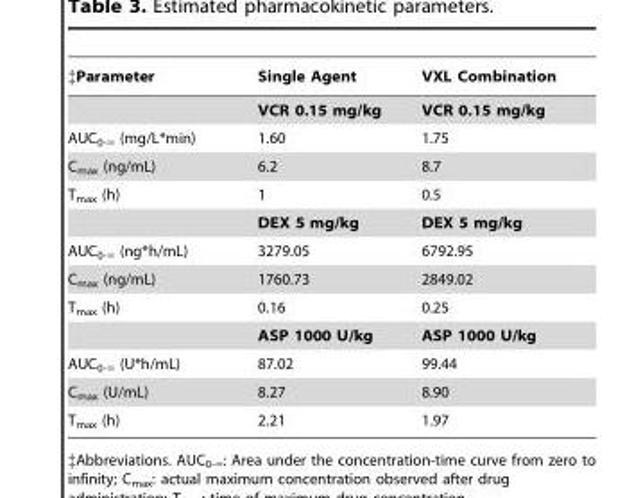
<table><thead><tr><td>‡Parameter</td><td>Single Agent</td><td>VXL Combination</td></tr></thead><tbody><tr><td></td><td>VCR 0.15 mg/kg</td><td>VCR 0.15 mg/kg</td></tr><tr><td>AUC0-‘ (mg/L*min)</td><td>1.60</td><td>1.75</td></tr><tr><td>C<sub>max</sub> (ng/mL)</td><td>6.2</td><td>8.7</td></tr><tr><td rowspan="2">T<sub>max</sub> (h)</td><td>1</td><td>0.5</td></tr><tr><td>DEX 5 mg/kg</td><td>DEX 5 mg/kg</td></tr><tr><td>AUC0-‘ (ng*h/mL)</td><td>3279.05</td><td>6792.95</td></tr><tr><td>C<sub>max</sub> (ng/mL)</td><td>1760.73</td><td>2849.02</td></tr><tr><td rowspan="2">T<sub>max</sub> (h)</td><td>0.16</td><td>0.25</td></tr><tr><td>ASP 1000 U/kg</td><td>ASP 1000 U/kg</td></tr><tr><td>AUC0-‘ (U*h/mL)</td><td>87.02</td><td>99.44</td></tr><tr><td>C<sub>max</sub> (U/mL)</td><td>8.27</td><td>8.90</td></tr><tr><td>T<sub>max</sub> (h)</td><td>2.21</td><td>1.97</td></tr></tbody></table>